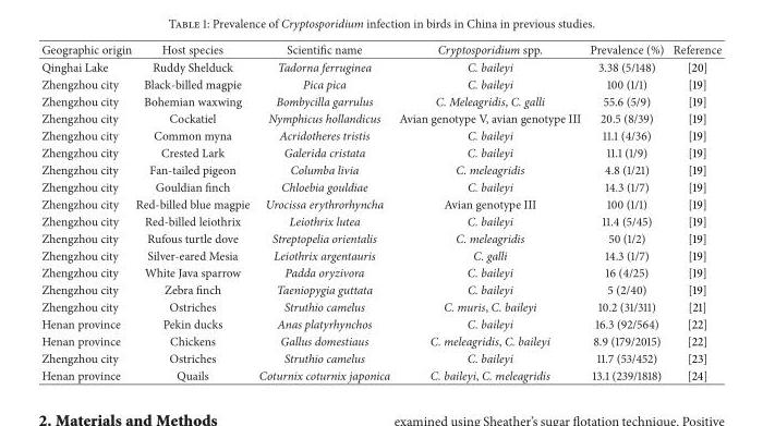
<table><thead><tr><td>Geographic origin</td><td>Host species</td><td>Scientific name</td><td>Cryptosporidium spp.</td><td>Prevalence (%)</td><td>Reference</td></tr></thead><tbody><tr><td>Qinghai Lake</td><td>Ruddy Shelduck</td><td>Tadorna ferruginea</td><td>C. baileyi</td><td>3.38 (5/148)</td><td>[20]</td></tr><tr><td>Zhengzhou city</td><td>Black-billed magpie</td><td>Pica pica</td><td>C. baileyi</td><td>100 (1/1)</td><td>[19]</td></tr><tr><td>Zhengzhou city</td><td>Bohemian waxwing</td><td>Bombycilla garrulus</td><td>C. Meleagridis, C. galli</td><td>55.6 (5/9)</td><td>[19]</td></tr><tr><td>Zhengzhou city</td><td>Cockatiel</td><td>Nymphicus hollandicus</td><td>Avian genotype V, avian genotype III</td><td>20.5 (8/39)</td><td>[19]</td></tr><tr><td>Zhengzhou city</td><td>Common myna</td><td>Acridotheres tristis</td><td>C. baileyi</td><td>11.1 (4/36)</td><td>[19]</td></tr><tr><td>Zhengzhou city</td><td>Crested Lark</td><td>Galerida cristata</td><td>C. baileyi</td><td>11.1 (1/9)</td><td>[19]</td></tr><tr><td>Zhengzhou city</td><td>Fan-tailed pigeon</td><td>Columba livia</td><td>C. meleagridis</td><td>4.8 (1/21)</td><td>[19]</td></tr><tr><td>Zhengzhou city</td><td>Gouldian finch</td><td>Chloebia gouldiae</td><td>C. baileyi</td><td>14.3 (1/7)</td><td>[19]</td></tr><tr><td>Zhengzhou city</td><td>Red-billed blue magpie</td><td>Urocissa erythrorhyncha</td><td>Avian genotype III</td><td>100 (1/1)</td><td>[19]</td></tr><tr><td>Zhengzhou city</td><td>Red-billed leiothrix</td><td>Leiothrix lutea</td><td>C. baileyi</td><td>11.4 (5/45)</td><td>[19]</td></tr><tr><td>Zhengzhou city</td><td>Rufous turtle dove</td><td>Streptopelia orientalis</td><td>C. meleagridis</td><td>50 (1/2)</td><td>[19]</td></tr><tr><td>Zhengzhou city</td><td>Silver-eared Mesia</td><td>Leiothrix argentauris</td><td>C. galli</td><td>14.3 (1/7)</td><td>[19]</td></tr><tr><td>Zhengzhou city</td><td>White Java sparrow</td><td>Padda oryzivora</td><td>C. baileyi</td><td>16 (4/25)</td><td>[19]</td></tr><tr><td>Zhengzhou city</td><td>Zebra finch</td><td>Taeniopygia guttata</td><td>C. baileyi</td><td>5 (2/40)</td><td>[19]</td></tr><tr><td>Zhengzhou city</td><td>Ostriches</td><td>Struthio camelus</td><td>C. muris, C. baileyi</td><td>10.2 (31/311)</td><td>[21]</td></tr><tr><td>Henan province</td><td>Pekin ducks</td><td>Anas platyrhynchos</td><td>C. baileyi</td><td>16.3 (92/564)</td><td>[22]</td></tr><tr><td>Henan province</td><td>Chickens</td><td>Gallus domestiaus</td><td>C. meleagridis, C. baileyi</td><td>8.9 (179/2015)</td><td>[22]</td></tr><tr><td>Zhengzhou city</td><td>Ostriches</td><td>Struthio camelus</td><td>C. baileyi</td><td>11.7 (53/452)</td><td>[23]</td></tr><tr><td>Henan province</td><td>Quails</td><td>Coturnix coturnix japonica</td><td>C. baileyi, C. meleagridis</td><td>13.1 (239/1818)</td><td>[24]</td></tr></tbody></table>